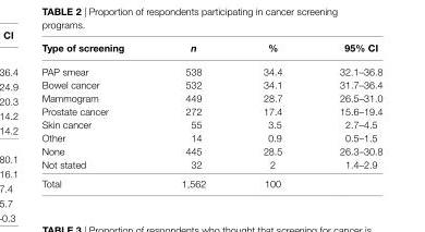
<table><thead><tr><td>Type of screening</td><td>n</td><td>%</td><td>95% ci</td></tr></thead><tbody><tr><td>PAP smear</td><td>538</td><td>34.4</td><td>32.1–36.8</td></tr><tr><td>Bowel cancer</td><td>532</td><td>34.1</td><td>31.7–36.4</td></tr><tr><td>Mammogram</td><td>449</td><td>28.7</td><td>26.5–31.0</td></tr><tr><td>Prostate cancer</td><td>272</td><td>17.4</td><td>15.6–19.4</td></tr><tr><td>Skin cancer</td><td>55</td><td>3.5</td><td>2.7–4.5</td></tr><tr><td>Other</td><td>14</td><td>0.9</td><td>0.5–1.5</td></tr><tr><td>None</td><td>445</td><td>28.5</td><td>26.3–30.8</td></tr><tr><td>Not stated</td><td>32</td><td>2</td><td>1.4–2.9</td></tr><tr><td>Total</td><td>1,562</td><td>100</td><td></td></tr></tbody></table>